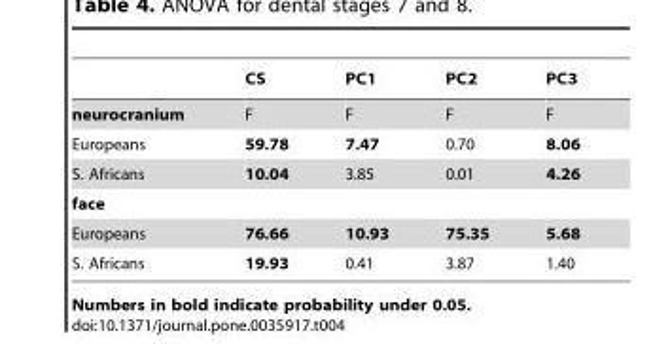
<table><thead><tr><td></td><td>CS</td><td>PC1</td><td>PC2</td><td>PC3</td></tr></thead><tbody><tr><td>neurocranium</td><td>F</td><td>F</td><td>F</td><td>F</td></tr><tr><td>Europeans</td><td>59.78</td><td>7.47</td><td>0.70</td><td>8.06</td></tr><tr><td>S. Africans</td><td>10.04</td><td>3.85</td><td>0.01</td><td>4.26</td></tr><tr><td colspan="5">face</td></tr><tr><td>Europeans</td><td>76.66</td><td>10.93</td><td>75.35</td><td>5.68</td></tr><tr><td>S. Africans</td><td>19.93</td><td>0.41</td><td>3.87</td><td>1.40</td></tr></tbody></table>